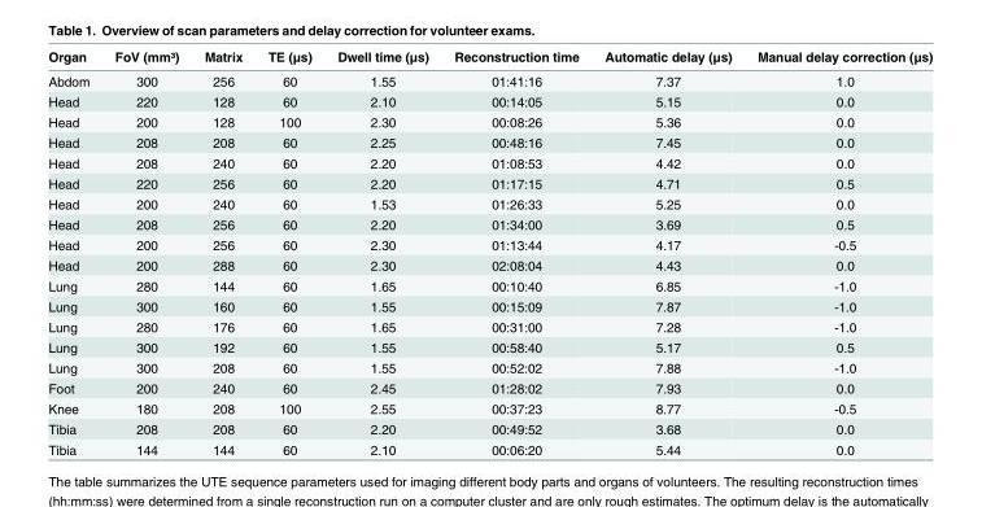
<table><thead><tr><td>Organ</td><td>FoV (mm³)</td><td>Matrix</td><td>TE (μs)</td><td>Dwell time (μs)</td><td>Reconstruction time</td><td>Automatic delay (μs)</td><td>Manual delay correction (μs)</td></tr></thead><tbody><tr><td>Abdom</td><td>300</td><td>256</td><td>60</td><td>1.55</td><td>01:41:16</td><td>7.37</td><td>1.0</td></tr><tr><td>Head</td><td>220</td><td>128</td><td>60</td><td>2.10</td><td>00:14:05</td><td>5.15</td><td>0.0</td></tr><tr><td>Head</td><td>200</td><td>128</td><td>100</td><td>2.30</td><td>00:08:26</td><td>5.36</td><td>0.0</td></tr><tr><td>Head</td><td>208</td><td>208</td><td>60</td><td>2.25</td><td>00:48:16</td><td>7.45</td><td>0.0</td></tr><tr><td>Head</td><td>208</td><td>240</td><td>60</td><td>2.20</td><td>01:08:53</td><td>4.42</td><td>0.0</td></tr><tr><td>Head</td><td>220</td><td>256</td><td>60</td><td>2.20</td><td>01:17:15</td><td>4.71</td><td>0.5</td></tr><tr><td>Head</td><td>200</td><td>240</td><td>60</td><td>1.53</td><td>01:26:33</td><td>5.25</td><td>0.0</td></tr><tr><td>Head</td><td>208</td><td>256</td><td>60</td><td>2.20</td><td>01:34:00</td><td>3.69</td><td>0.5</td></tr><tr><td>Head</td><td>200</td><td>256</td><td>60</td><td>2.30</td><td>01:13:44</td><td>4.17</td><td>-0.5</td></tr><tr><td>Head</td><td>200</td><td>288</td><td>60</td><td>2.30</td><td>02:08:04</td><td>4.43</td><td>0.0</td></tr><tr><td>Lung</td><td>280</td><td>144</td><td>60</td><td>1.65</td><td>00:10:40</td><td>6.85</td><td>-1.0</td></tr><tr><td>Lung</td><td>300</td><td>160</td><td>60</td><td>1.55</td><td>00:15:09</td><td>7.87</td><td>-1.0</td></tr><tr><td>Lung</td><td>280</td><td>176</td><td>60</td><td>1.65</td><td>00:31:00</td><td>7.28</td><td>-1.0</td></tr><tr><td>Lung</td><td>300</td><td>192</td><td>60</td><td>1.55</td><td>00:58:40</td><td>5.17</td><td>0.5</td></tr><tr><td>Lung</td><td>300</td><td>208</td><td>60</td><td>1.55</td><td>00:52:02</td><td>7.88</td><td>-1.0</td></tr><tr><td>Foot</td><td>200</td><td>240</td><td>60</td><td>2.45</td><td>01:28:02</td><td>7.93</td><td>0.0</td></tr><tr><td>Knee</td><td>180</td><td>208</td><td>100</td><td>2.55</td><td>00:37:23</td><td>8.77</td><td>-0.5</td></tr><tr><td>Tibia</td><td>208</td><td>208</td><td>60</td><td>2.20</td><td>00:49:52</td><td>3.68</td><td>0.0</td></tr><tr><td>Tibia</td><td>144</td><td>144</td><td>60</td><td>2.10</td><td>00:06:20</td><td>5.44</td><td>0.0</td></tr></tbody></table>